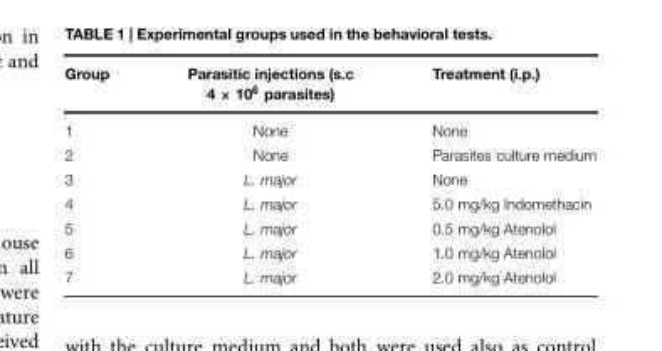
<table><thead><tr><td>Group</td><td>Parasitic injections (s.c 4 × 10<sup>6</sup> parasites)</td><td>Treatment (i.p.)</td></tr></thead><tbody><tr><td>1</td><td>None</td><td>None</td></tr><tr><td>2</td><td>None</td><td>Parasites culture medium</td></tr><tr><td>3</td><td>L. major</td><td>None</td></tr><tr><td>4</td><td>L. major</td><td>5.0 mg/kg Indomethacin</td></tr><tr><td>5</td><td>L. major</td><td>0.5 mg/kg Atenolol</td></tr><tr><td>6</td><td>L. major</td><td>1.0 mg/kg Atenolol</td></tr><tr><td>7</td><td>L. major</td><td>2.0 mg/kg Atenolol</td></tr></tbody></table>